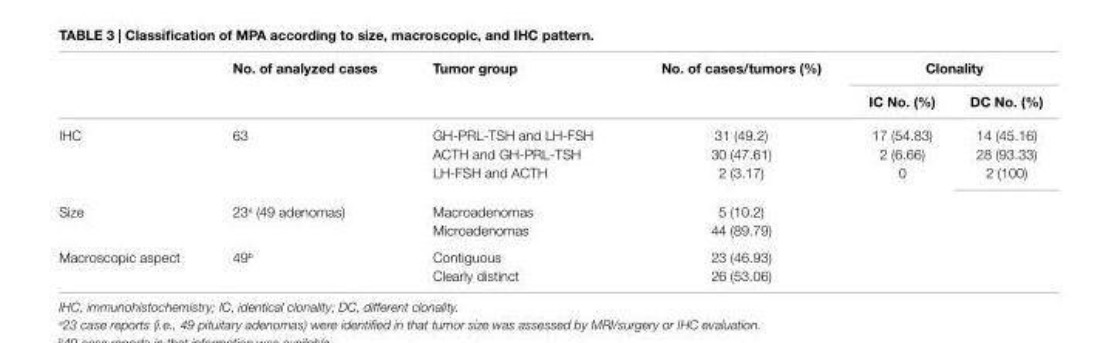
<table><thead><tr><td rowspan="2"></td><td rowspan="2">No. of analyzed cases</td><td rowspan="2">Tumor group</td><td rowspan="2">No. of cases/tumors (%)</td><td colspan="2">Clonality</td></tr><tr><td>iC No. (%)</td><td>DC No. (%)</td></tr></thead><tbody><tr><td rowspan="3">IHC</td><td rowspan="3">63</td><td>GH-PRL-TSH and LH-FSH</td><td>31 (49.2)</td><td>17 (54.83)</td><td>14 (45.16)</td></tr><tr><td>ACTH and GH-PRL-TSH</td><td>30 (47.61)</td><td>2 (6.66)</td><td>28 (93.33)</td></tr><tr><td>LH-FSH and ACTH</td><td>2 (3.17)</td><td>0</td><td>2 (100)</td></tr><tr><td rowspan="2">Size</td><td rowspan="2">23<sup>a</sup> (49 adenomas)</td><td>Macroadenomas</td><td>5 (10.2)</td><td rowspan="2" colspan="2"></td></tr><tr><td>Microadenomas</td><td>44 (89.79)</td></tr><tr><td rowspan="2">Macroscopic aspect</td><td rowspan="2">49<sup>b</sup></td><td>Contiguous</td><td>23 (46.93)</td><td rowspan="2" colspan="2"></td></tr><tr><td>Clearly distinct</td><td>26 (53.06)</td></tr></tbody></table>